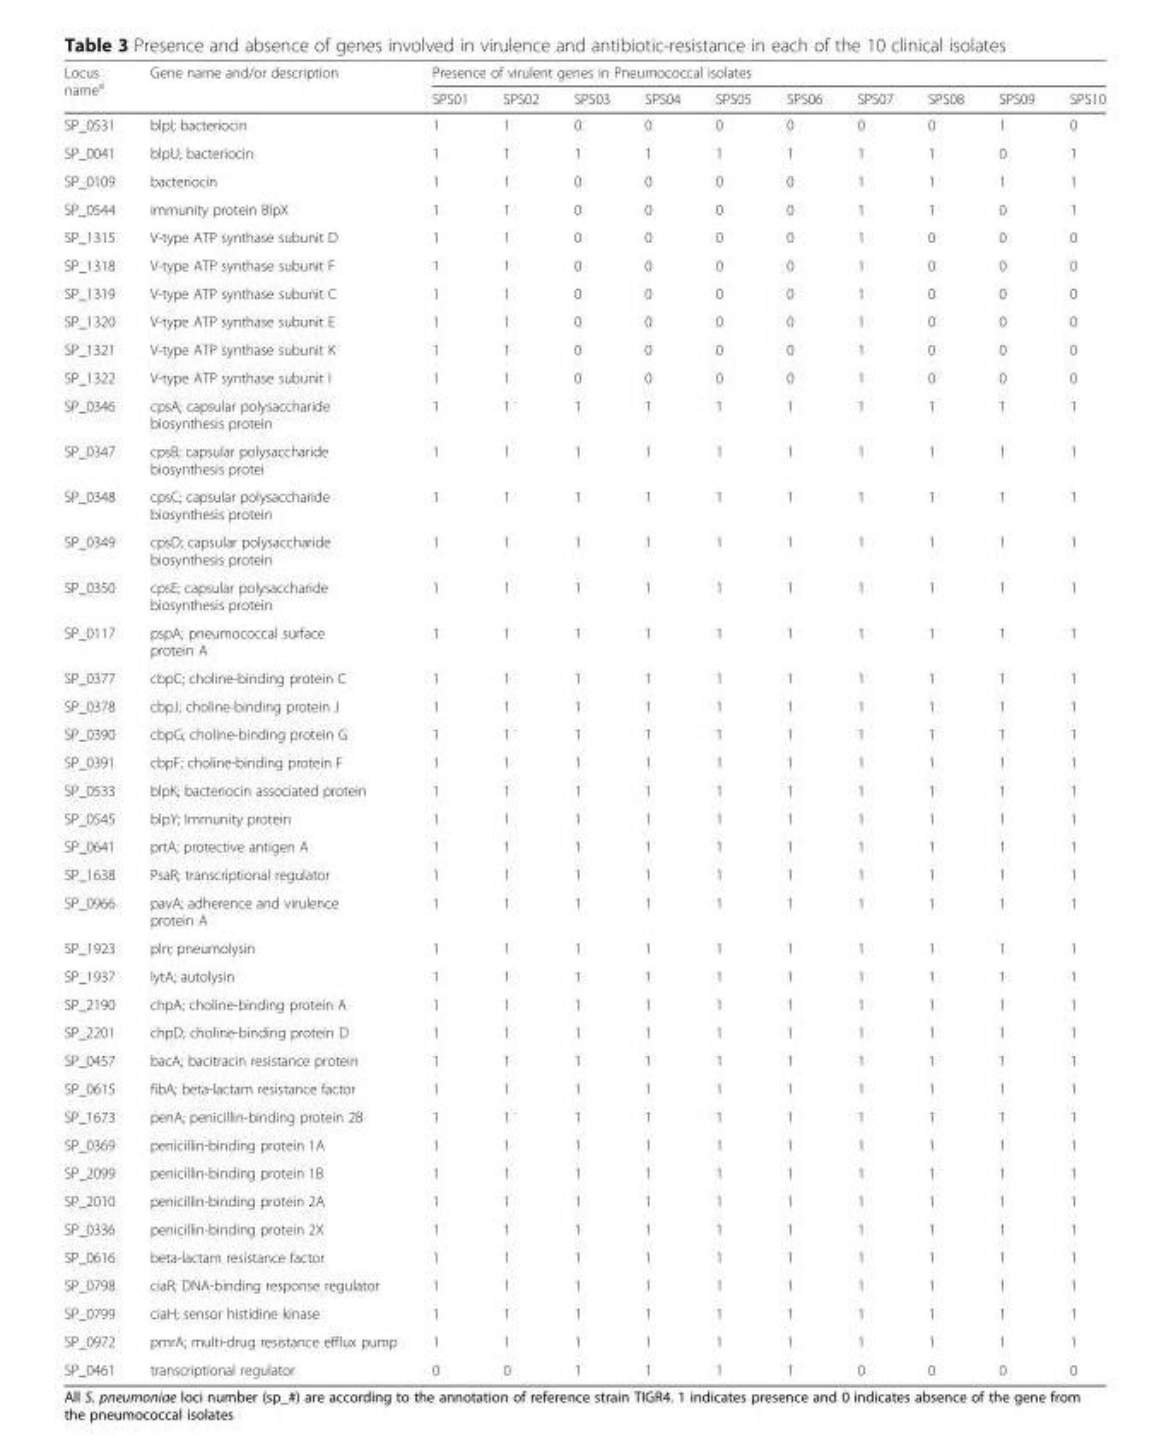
<table><thead><tr><td rowspan="2">Locus name<sup>a</sup></td><td rowspan="2">Gene name and/or description</td><td colspan="10">Presence of virulent genes in Pneumococcal isolates</td></tr><tr><td>SPS01</td><td>SPS02</td><td>SPS03</td><td>SPS04</td><td>SPS05</td><td>SPS06</td><td>SPS07</td><td>SPS08</td><td>SPS09</td><td>SPS10</td></tr></thead><tbody><tr><td>SP_0531</td><td>blpI; bacteriocin</td><td>1</td><td>1</td><td>0</td><td>0</td><td>0</td><td>0</td><td>0</td><td>0</td><td>1</td><td>0</td></tr><tr><td>SP_0041</td><td>blpU; bacteriocin</td><td>1</td><td>1</td><td>1</td><td>1</td><td>1</td><td>1</td><td>1</td><td>1</td><td>0</td><td>1</td></tr><tr><td>SP_0109</td><td>bacteriocin</td><td>1</td><td>1</td><td>0</td><td>0</td><td>0</td><td>0</td><td>1</td><td>1</td><td>1</td><td>1</td></tr><tr><td>SP_0544</td><td>immunity protein BlpX</td><td>1</td><td>1</td><td>0</td><td>0</td><td>0</td><td>0</td><td>1</td><td>1</td><td>0</td><td>1</td></tr><tr><td>SP_1315</td><td>V-type ATP synthase subunit D</td><td>1</td><td>1</td><td>0</td><td>0</td><td>0</td><td>0</td><td>1</td><td>0</td><td>0</td><td>0</td></tr><tr><td>SP_1318</td><td>V-type ATP synthase subunit F</td><td>1</td><td>1</td><td>0</td><td>0</td><td>0</td><td>0</td><td>1</td><td>0</td><td>0</td><td>0</td></tr><tr><td>SP_1319</td><td>V-type ATP synthase subunit C</td><td>1</td><td>1</td><td>0</td><td>0</td><td>0</td><td>0</td><td>1</td><td>0</td><td>0</td><td>0</td></tr><tr><td>SP_1320</td><td>V-type ATP synthase subunit E</td><td>1</td><td>1</td><td>0</td><td>0</td><td>0</td><td>0</td><td>1</td><td>0</td><td>0</td><td>0</td></tr><tr><td>SP_1321</td><td>V-type ATP synthase subunit K</td><td>1</td><td>1</td><td>0</td><td>0</td><td>0</td><td>0</td><td>1</td><td>0</td><td>0</td><td>0</td></tr><tr><td>SP_1322</td><td>V-type ATP synthase subunit I</td><td>1</td><td>1</td><td>0</td><td>0</td><td>0</td><td>0</td><td>1</td><td>0</td><td>0</td><td>0</td></tr><tr><td>SP_0346</td><td>cpsA; capsular polysaccharide biosynthesis protein</td><td>1</td><td>1</td><td>1</td><td>1</td><td>1</td><td>1</td><td>1</td><td>1</td><td>1</td><td>1</td></tr><tr><td>SP_0347</td><td>cpsB; capsular polysaccharide biosynthesis protei</td><td>1</td><td>1</td><td>1</td><td>1</td><td>1</td><td>1</td><td>1</td><td>1</td><td>1</td><td>1</td></tr><tr><td>SP_0348</td><td>cpsC; capsular polysaccharide biosynthesis protein</td><td>1</td><td>1</td><td>1</td><td>1</td><td>1</td><td>1</td><td>1</td><td>1</td><td>1</td><td>1</td></tr><tr><td>SP_0349</td><td>cpsD; capsular polysaccharide biosynthesis protein</td><td>1</td><td>1</td><td>1</td><td>1</td><td>1</td><td>1</td><td>1</td><td>1</td><td>1</td><td>1</td></tr><tr><td>SP_0350</td><td>cpsE; capsular polysaccharide biosynthesis protein</td><td>1</td><td>1</td><td>1</td><td>1</td><td>1</td><td>1</td><td>1</td><td>1</td><td>1</td><td>1</td></tr><tr><td>SP_0117</td><td>pspA; pneumococcal surface protein A</td><td>1</td><td>1</td><td>1</td><td>1</td><td>1</td><td>1</td><td>1</td><td>1</td><td>1</td><td>1</td></tr><tr><td>SP_0377</td><td>cbpC; choline-binding protein C</td><td>1</td><td>1</td><td>1</td><td>1</td><td>1</td><td>1</td><td>1</td><td>1</td><td>1</td><td>1</td></tr><tr><td>SP_0378</td><td>cbpJ; choline-binding protein J</td><td>1</td><td>1</td><td>1</td><td>1</td><td>1</td><td>1</td><td>1</td><td>1</td><td>1</td><td>1</td></tr><tr><td>SP_0390</td><td>cbpG; choline-binding protein G</td><td>1</td><td>1</td><td>1</td><td>1</td><td>1</td><td>1</td><td>1</td><td>1</td><td>1</td><td>1</td></tr><tr><td>SP_0391</td><td>cbpF; choline-binding protein F</td><td>1</td><td>1</td><td>1</td><td>1</td><td>1</td><td>1</td><td>1</td><td>1</td><td>1</td><td>1</td></tr><tr><td>SP_0533</td><td>blpK; bacteriocin associated protein</td><td>1</td><td>1</td><td>1</td><td>1</td><td>1</td><td>1</td><td>1</td><td>1</td><td>1</td><td>1</td></tr><tr><td>SP_0545</td><td>blpY; Immunity protein</td><td>1</td><td>1</td><td>1</td><td>1</td><td>1</td><td>1</td><td>1</td><td>1</td><td>1</td><td>1</td></tr><tr><td>SP_0641</td><td>prtA; protective antigen A</td><td>1</td><td>1</td><td>1</td><td>1</td><td>1</td><td>1</td><td>1</td><td>1</td><td>1</td><td>1</td></tr><tr><td>SP_1638</td><td>PsaR; transcriptional regulator</td><td>1</td><td>1</td><td>1</td><td>1</td><td>1</td><td>1</td><td>1</td><td>1</td><td>1</td><td>1</td></tr><tr><td>SP_0966</td><td>pavA; adherence and virulence protein A</td><td>1</td><td>1</td><td>1</td><td>1</td><td>1</td><td>1</td><td>1</td><td>1</td><td>1</td><td>1</td></tr><tr><td>SP_1923</td><td>pln; pneumolysin</td><td>1</td><td>1</td><td>1</td><td>1</td><td>1</td><td>1</td><td>1</td><td>1</td><td>1</td><td>1</td></tr><tr><td>SP_1937</td><td>lytA; autolysin</td><td>1</td><td>1</td><td>1</td><td>1</td><td>1</td><td>1</td><td>1</td><td>1</td><td>1</td><td>1</td></tr><tr><td>SP_2190</td><td>chpA; choline-binding protein A</td><td>1</td><td>1</td><td>1</td><td>1</td><td>1</td><td>1</td><td>1</td><td>1</td><td>1</td><td>1</td></tr><tr><td>SP_2201</td><td>chpD; choline-binding protein D</td><td>1</td><td>1</td><td>1</td><td>1</td><td>1</td><td>1</td><td>1</td><td>1</td><td>1</td><td>1</td></tr><tr><td>SP_0457</td><td>bacA; bacitracin resistance protein</td><td>1</td><td>1</td><td>1</td><td>1</td><td>1</td><td>1</td><td>1</td><td>1</td><td>1</td><td>1</td></tr><tr><td>SP_0615</td><td>fibA; beta-lactam resistance factor</td><td>1</td><td>1</td><td>1</td><td>1</td><td>1</td><td>1</td><td>1</td><td>1</td><td>1</td><td>1</td></tr><tr><td>SP_1673</td><td>penA; penicillin-binding protein 2B</td><td>1</td><td>1</td><td>1</td><td>1</td><td>1</td><td>1</td><td>1</td><td>1</td><td>1</td><td>1</td></tr><tr><td>SP_0369</td><td>penicillin-binding protein 1A</td><td>1</td><td>1</td><td>1</td><td>1</td><td>1</td><td>1</td><td>1</td><td>1</td><td>1</td><td>1</td></tr><tr><td>SP_2099</td><td>penicillin-binding protein 1B</td><td>1</td><td>1</td><td>1</td><td>1</td><td>1</td><td>1</td><td>1</td><td>1</td><td>1</td><td>1</td></tr><tr><td>SP_2010</td><td>penicillin-binding protein 2A</td><td>1</td><td>1</td><td>1</td><td>1</td><td>1</td><td>1</td><td>1</td><td>1</td><td>1</td><td>1</td></tr><tr><td>SP_0336</td><td>penicillin-binding protein 2X</td><td>1</td><td>1</td><td>1</td><td>1</td><td>1</td><td>1</td><td>1</td><td>1</td><td>1</td><td>1</td></tr><tr><td>SP_0616</td><td>beta-lactam resistance factor</td><td>1</td><td>1</td><td>1</td><td>1</td><td>1</td><td>1</td><td>1</td><td>1</td><td>1</td><td>1</td></tr><tr><td>SP_0798</td><td>ciaR; DNA-binding response regulator</td><td>1</td><td>1</td><td>1</td><td>1</td><td>1</td><td>1</td><td>1</td><td>1</td><td>1</td><td>1</td></tr><tr><td>SP_0799</td><td>ciaH; sensor histidine kinase</td><td>1</td><td>1</td><td>1</td><td>1</td><td>1</td><td>1</td><td>1</td><td>1</td><td>1</td><td>1</td></tr><tr><td>SP_0972</td><td>pmrA; multi-drug resistance efflux pump</td><td>1</td><td>1</td><td>1</td><td>1</td><td>1</td><td>1</td><td>1</td><td>1</td><td>1</td><td>1</td></tr><tr><td>SP_0461</td><td>transcriptional regulator</td><td>0</td><td>0</td><td>1</td><td>1</td><td>1</td><td>1</td><td>0</td><td>0</td><td>0</td><td>0</td></tr></tbody></table>